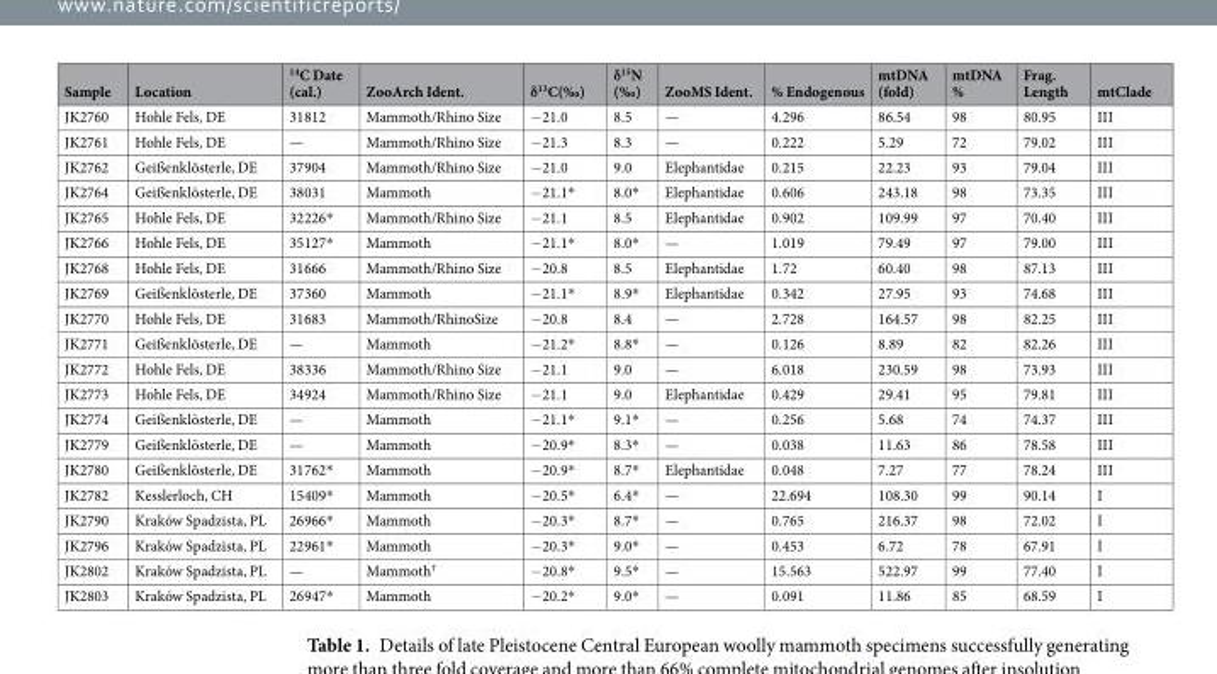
<table><thead><tr><td>Sample</td><td>Location</td><td><sup>14</sup>C Date (cal.)</td><td>ZooArch Ident.</td><td>δ<sup>13</sup>C(‰)</td><td>δ<sup>15</sup>N (‰)</td><td>ZooMS Ident.</td><td>% Endogenous</td><td>mtDNA (fold)</td><td>mtDNA %</td><td>Frag. Length</td><td>mtClade</td></tr></thead><tbody><tr><td>JK2760</td><td>Hohle Fels, DE</td><td>31812</td><td>Mammoth/Rhino Size</td><td>−21.0</td><td>8.5</td><td>—</td><td>4.296</td><td>86.54</td><td>98</td><td>80.95</td><td>III</td></tr><tr><td>JK2761</td><td>Hohle Fels, DE</td><td>—</td><td>Mammoth/Rhino Size</td><td>−21.3</td><td>8.3</td><td>—</td><td>0.222</td><td>5.29</td><td>72</td><td>79.02</td><td>III</td></tr><tr><td>JK2762</td><td>Geißenklösterle, DE</td><td>37904</td><td>Mammoth/Rhino Size</td><td>−21.0</td><td>9.0</td><td>Elephantidae</td><td>0.215</td><td>22.23</td><td>93</td><td>79.04</td><td>III</td></tr><tr><td>JK2764</td><td>Geißenklösterle, DE</td><td>38031</td><td>Mammoth</td><td>−21.1*</td><td>8.0*</td><td>Elephantidae</td><td>0.606</td><td>243.18</td><td>98</td><td>73.35</td><td>III</td></tr><tr><td>JK2765</td><td>Hohle Fels, DE</td><td>32226*</td><td>Mammoth/Rhino Size</td><td>−21.1</td><td>8.5</td><td>Elephantidae</td><td>0.902</td><td>109.99</td><td>97</td><td>70.40</td><td>III</td></tr><tr><td>JK2766</td><td>Hohle Fels, DE</td><td>35127*</td><td>Mammoth</td><td>−21.1*</td><td>8.0*</td><td>—</td><td>1.019</td><td>79.49</td><td>97</td><td>79.00</td><td>III</td></tr><tr><td>JK2768</td><td>Hohle Fels, DE</td><td>31666</td><td>Mammoth/Rhino Size</td><td>−20.8</td><td>8.5</td><td>Elephantidae</td><td>1.72</td><td>60.40</td><td>98</td><td>87.13</td><td>III</td></tr><tr><td>JK2769</td><td>Geißenklösterle, DE</td><td>37360</td><td>Mammoth</td><td>−21.1*</td><td>8.9*</td><td>Elephantidae</td><td>0.342</td><td>27.95</td><td>93</td><td>74.68</td><td>III</td></tr><tr><td>JK2770</td><td>Hohle Fels, DE</td><td>31683</td><td>Mammoth/RhinoSize</td><td>−20.8</td><td>8.4</td><td>—</td><td>2.728</td><td>164.57</td><td>98</td><td>82.25</td><td>III</td></tr><tr><td>JK2771</td><td>Geißenklösterle, DE</td><td>—</td><td>Mammoth</td><td>−21.2*</td><td>8.8*</td><td>—</td><td>0.126</td><td>8.89</td><td>82</td><td>82.26</td><td>III</td></tr><tr><td>JK2772</td><td>Hohle Fels, DE</td><td>38336</td><td>Mammoth/Rhino Size</td><td>−21.1</td><td>9.0</td><td>—</td><td>6.018</td><td>230.59</td><td>98</td><td>73.93</td><td>III</td></tr><tr><td>JK2773</td><td>Hohle Fels, DE</td><td>34924</td><td>Mammoth/Rhino Size</td><td>−21.1</td><td>9.0</td><td>Elephantidae</td><td>0.429</td><td>29.41</td><td>95</td><td>79.81</td><td>III</td></tr><tr><td>JK2774</td><td>Geißenklösterle, DE</td><td>—</td><td>Mammoth</td><td>−21.1*</td><td>9.1*</td><td>—</td><td>0.256</td><td>5.68</td><td>74</td><td>74.37</td><td>III</td></tr><tr><td>JK2779</td><td>Geißenklösterle, DE</td><td>—</td><td>Mammoth</td><td>−20.9*</td><td>8.3*</td><td>—</td><td>0.038</td><td>11.63</td><td>86</td><td>78.58</td><td>III</td></tr><tr><td>JK2780</td><td>Geißenklösterle, DE</td><td>31762*</td><td>Mammoth</td><td>−20.9*</td><td>8.7*</td><td>Elephantidae</td><td>0.048</td><td>7.27</td><td>77</td><td>78.24</td><td>III</td></tr><tr><td>JK2782</td><td>Kesslerloch, CH</td><td>15409*</td><td>Mammoth</td><td>−20.5*</td><td>6.4*</td><td>—</td><td>22.694</td><td>108.30</td><td>99</td><td>90.14</td><td>I</td></tr><tr><td>JK2790</td><td>Kraków Spadzista, PL</td><td>26966*</td><td>Mammoth</td><td>−20.3*</td><td>8.7*</td><td>—</td><td>0.765</td><td>216.37</td><td>98</td><td>72.02</td><td>I</td></tr><tr><td>JK2796</td><td>Kraków Spadzista, PL</td><td>22961*</td><td>Mammoth</td><td>−20.3*</td><td>9.0*</td><td>—</td><td>0.453</td><td>6.72</td><td>78</td><td>67.91</td><td>I</td></tr><tr><td>JK2802</td><td>Kraków Spadzista, PL</td><td>—</td><td>Mammoth<sup>†</sup></td><td>−20.8*</td><td>9.5*</td><td>—</td><td>15.563</td><td>522.97</td><td>99</td><td>77.40</td><td>I</td></tr><tr><td>JK2803</td><td>Kraków Spadzista, PL</td><td>26947*</td><td>Mammoth</td><td>−20.2*</td><td>9.0*</td><td>—</td><td>0.091</td><td>11.86</td><td>85</td><td>68.59</td><td>I</td></tr></tbody></table>